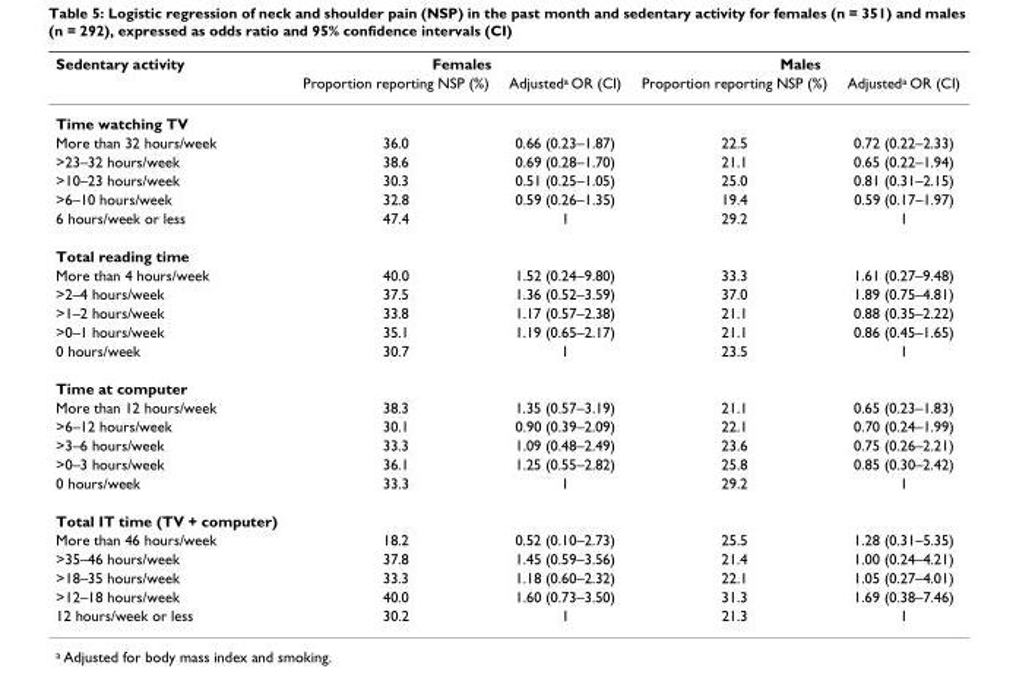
<table><thead><tr><td rowspan="2">Sedentary activity</td><td colspan="2">Females</td><td colspan="2">Males</td></tr><tr><td>Proportion reporting NSP (%)</td><td>Adjusted<sup>a</sup> OR (CI)</td><td>Proportion reporting NSP (%)</td><td>Adjusted<sup>a</sup> OR (CI)</td></tr></thead><tbody><tr><td colspan="5">Time watching TV</td></tr><tr><td>More than 32 hours/week</td><td>36.0</td><td>0.66 (0.23–1.87)</td><td>22.5</td><td>0.72 (0.22–2.33)</td></tr><tr><td>&gt;23–32 hours/week</td><td>38.6</td><td>0.69 (0.28–1.70)</td><td>21.1</td><td>0.65 (0.22–1.94)</td></tr><tr><td>&gt;10–23 hours/week</td><td>30.3</td><td>0.51 (0.25–1.05)</td><td>25.0</td><td>0.81 (0.31–2.15)</td></tr><tr><td>&gt;6–10 hours/week</td><td>32.8</td><td>0.59 (0.26–1.35)</td><td>19.4</td><td>0.59 (0.17–1.97)</td></tr><tr><td>6 hours/week or less</td><td>47.4</td><td>1</td><td>29.2</td><td>1</td></tr><tr><td colspan="5">Total reading time</td></tr><tr><td>More than 4 hours/week</td><td>40.0</td><td>1.52 (0.24–9.80)</td><td>33.3</td><td>1.61 (0.27–9.48)</td></tr><tr><td>&gt;2–4 hours/week</td><td>37.5</td><td>1.36 (0.52–3.59)</td><td>37.0</td><td>1.89 (0.75–4.81)</td></tr><tr><td>&gt;1–2 hours/week</td><td>33.8</td><td>1.17 (0.57–2.38)</td><td>21.1</td><td>0.88 (0.35–2.22)</td></tr><tr><td>&gt;0–1 hours/week</td><td>35.1</td><td>1.19 (0.65–2.17)</td><td>21.1</td><td>0.86 (0.45–1.65)</td></tr><tr><td>0 hours/week</td><td>30.7</td><td>1</td><td>23.5</td><td>1</td></tr><tr><td colspan="5">Time at computer</td></tr><tr><td>More than 12 hours/week</td><td>38.3</td><td>1.35 (0.57–3.19)</td><td>21.1</td><td>0.65 (0.23–1.83)</td></tr><tr><td>&gt;6–12 hours/week</td><td>30.1</td><td>0.90 (0.39–2.09)</td><td>22.1</td><td>0.70 (0.24–1.99)</td></tr><tr><td>&gt;3–6 hours/week</td><td>33.3</td><td>1.09 (0.48–2.49)</td><td>23.6</td><td>0.75 (0.26–2.21)</td></tr><tr><td>&gt;0–3 hours/week</td><td>36.1</td><td>1.25 (0.55–2.82)</td><td>25.8</td><td>0.85 (0.30–2.42)</td></tr><tr><td>0 hours/week</td><td>33.3</td><td>1</td><td>29.2</td><td>1</td></tr><tr><td colspan="5">Total IT time (TV + computer)</td></tr><tr><td>More than 46 hours/week</td><td>18.2</td><td>0.52 (0.10–2.73)</td><td>25.5</td><td>1.28 (0.31–5.35)</td></tr><tr><td>&gt;35–46 hours/week</td><td>37.8</td><td>1.45 (0.59–3.56)</td><td>21.4</td><td>1.00 (0.24–4.21)</td></tr><tr><td>&gt;18–35 hours/week</td><td>33.3</td><td>1.18 (0.60–2.32)</td><td>22.1</td><td>1.05 (0.27–4.01)</td></tr><tr><td>&gt;12–18 hours/week</td><td>40.0</td><td>1.60 (0.73–3.50)</td><td>31.3</td><td>1.69 (0.38–7.46)</td></tr><tr><td>12 hours/week or less</td><td>30.2</td><td>1</td><td>21.3</td><td>1</td></tr></tbody></table>